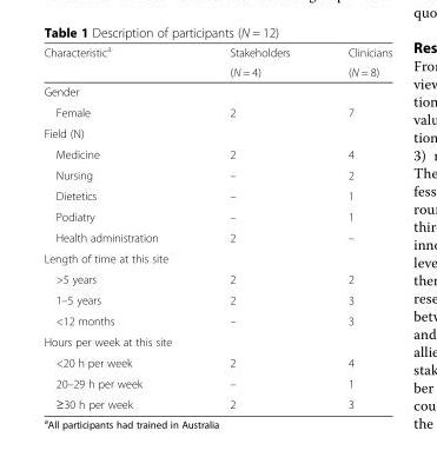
<table><thead><tr><td rowspan="2">Characteristic<sup>a</sup></td><td rowspan="2">Stakeholders (N = 4)</td><td rowspan="2">Clinicians (N = 8)</td></tr><tr></tr></thead><tbody><tr><td colspan="3">Gender</td></tr><tr><td>Female</td><td>2</td><td>7</td></tr><tr><td colspan="3">Field (N)</td></tr><tr><td>Medicine</td><td>2</td><td>4</td></tr><tr><td>Nursing</td><td>–</td><td>2</td></tr><tr><td>Dietetics</td><td>–</td><td>1</td></tr><tr><td>Podiatry</td><td>–</td><td>1</td></tr><tr><td>Health administration</td><td>2</td><td>–</td></tr><tr><td colspan="3">Length of time at this site</td></tr><tr><td>&gt;5 years</td><td>2</td><td>2</td></tr><tr><td>1–5 years</td><td>2</td><td>3</td></tr><tr><td>&lt;12 months</td><td>–</td><td>3</td></tr><tr><td colspan="3">Hours per week at this site</td></tr><tr><td>&lt;20 h per week</td><td>2</td><td>4</td></tr><tr><td>20–29 h per week</td><td>–</td><td>1</td></tr><tr><td>≥30 h per week</td><td>2</td><td>3</td></tr></tbody></table>